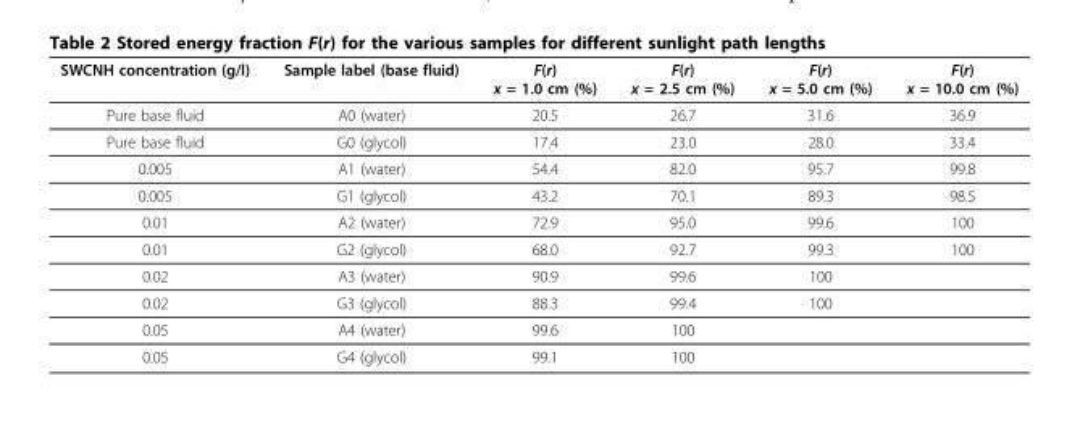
<table><thead><tr><td>SWCNH concentration (g/l)</td><td>Sample label (base fluid)</td><td>F(r) x = 1.0 cm (%)</td><td>F(r) x = 2.5 cm (%)</td><td>F(r) x = 5.0 cm (%)</td><td>F(r) x = 10.0 cm (%)</td></tr></thead><tbody><tr><td>Pure base fluid</td><td>A0 (water)</td><td>20.5</td><td>26.7</td><td>31.6</td><td>36.9</td></tr><tr><td>Pure base fluid</td><td>G0 (glycol)</td><td>17.4</td><td>23.0</td><td>28.0</td><td>33.4</td></tr><tr><td>0.005</td><td>A1 (water)</td><td>54.4</td><td>82.0</td><td>95.7</td><td>99.8</td></tr><tr><td>0.005</td><td>G1 (glycol)</td><td>43.2</td><td>70.1</td><td>89.3</td><td>98.5</td></tr><tr><td>0.01</td><td>A2 (water)</td><td>72.9</td><td>95.0</td><td>99.6</td><td>100</td></tr><tr><td>0.01</td><td>G2 (glycol)</td><td>68.0</td><td>92.7</td><td>99.3</td><td>100</td></tr><tr><td>0.02</td><td>A3 (water)</td><td>90.9</td><td>99.6</td><td>100</td><td></td></tr><tr><td>0.02</td><td>G3 (glycol)</td><td>88.3</td><td>99.4</td><td>100</td><td></td></tr><tr><td>0.05</td><td>A4 (water)</td><td>99.6</td><td>100</td><td></td><td></td></tr><tr><td>0.05</td><td>G4 (glycol)</td><td>99.1</td><td>100</td><td></td><td></td></tr></tbody></table>